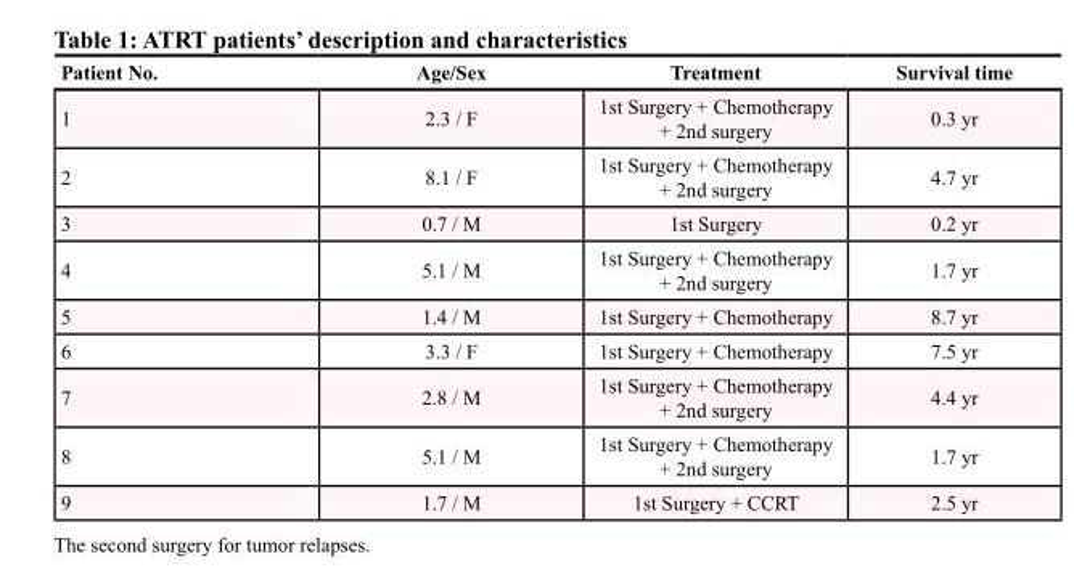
<table><thead><tr><td>Patient No.</td><td>Age/Sex</td><td>Treatment</td><td>Survival time</td></tr></thead><tbody><tr><td>1</td><td>2.3 / F</td><td>1st Surgery + Chemotherapy + 2nd surgery</td><td>0.3 yr</td></tr><tr><td>2</td><td>8.1 / F</td><td>1st Surgery + Chemotherapy + 2nd surgery</td><td>4.7 yr</td></tr><tr><td>3</td><td>0.7 / M</td><td>1st Surgery</td><td>0.2 yr</td></tr><tr><td>4</td><td>5.1 / M</td><td>1st Surgery + Chemotherapy + 2nd surgery</td><td>1.7 yr</td></tr><tr><td>5</td><td>1.4 / M</td><td>1st Surgery + Chemotherapy</td><td>8.7 yr</td></tr><tr><td>6</td><td>3.3 / F</td><td>1st Surgery + Chemotherapy</td><td>7.5 yr</td></tr><tr><td>7</td><td>2.8 / M</td><td>1st Surgery + Chemotherapy + 2nd surgery</td><td>4.4 yr</td></tr><tr><td>8</td><td>5.1 / M</td><td>1st Surgery + Chemotherapy + 2nd surgery</td><td>1.7 yr</td></tr><tr><td>9</td><td>1.7 / M</td><td>1st Surgery + CCRT</td><td>2.5 yr</td></tr></tbody></table>